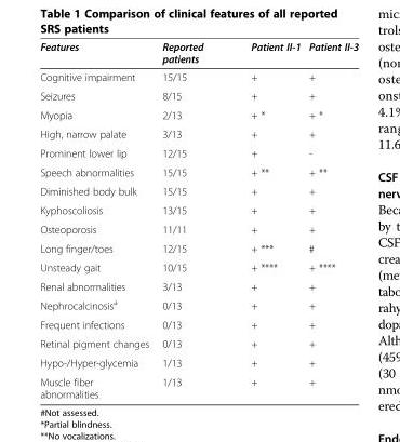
<table><thead><tr><td>Features</td><td>Reported patients</td><td>Patient II-1</td><td>Patient II-3</td></tr></thead><tbody><tr><td>Cognitive impairment</td><td>15/15</td><td>+</td><td>+</td></tr><tr><td>Seizures</td><td>8/15</td><td>+</td><td>+</td></tr><tr><td>Myopia</td><td>2/13</td><td>+ *</td><td>+ *</td></tr><tr><td>High, narrow palate</td><td>3/13</td><td>+</td><td>+</td></tr><tr><td>Prominent lower lip</td><td>12/15</td><td>+</td><td>-</td></tr><tr><td>Speech abnormalities</td><td>15/15</td><td>+ **</td><td>+ **</td></tr><tr><td>Diminished body bulk</td><td>15/15</td><td>+</td><td>+</td></tr><tr><td>Kyphoscoliosis</td><td>13/15</td><td>+</td><td>+</td></tr><tr><td>Osteoporosis</td><td>11/11</td><td>+</td><td>+</td></tr><tr><td>Long finger/toes</td><td>12/15</td><td>+ ***</td><td>#</td></tr><tr><td>Unsteady gait</td><td>10/15</td><td>+ ****</td><td>+ ****</td></tr><tr><td>Renal abnormalities</td><td>3/13</td><td>+</td><td>+</td></tr><tr><td>Nephrocalcinosis<sup>a</sup></td><td>0/13</td><td>+</td><td>+</td></tr><tr><td>Frequent infections</td><td>0/13</td><td>+</td><td>+</td></tr><tr><td>Retinal pigment changes</td><td>0/13</td><td>+</td><td>+</td></tr><tr><td>Hypo-/Hyper-glycemia</td><td>1/13</td><td>+</td><td>+</td></tr><tr><td>Muscle fiber abnormalities</td><td>1/13</td><td>+</td><td>+</td></tr></tbody></table>